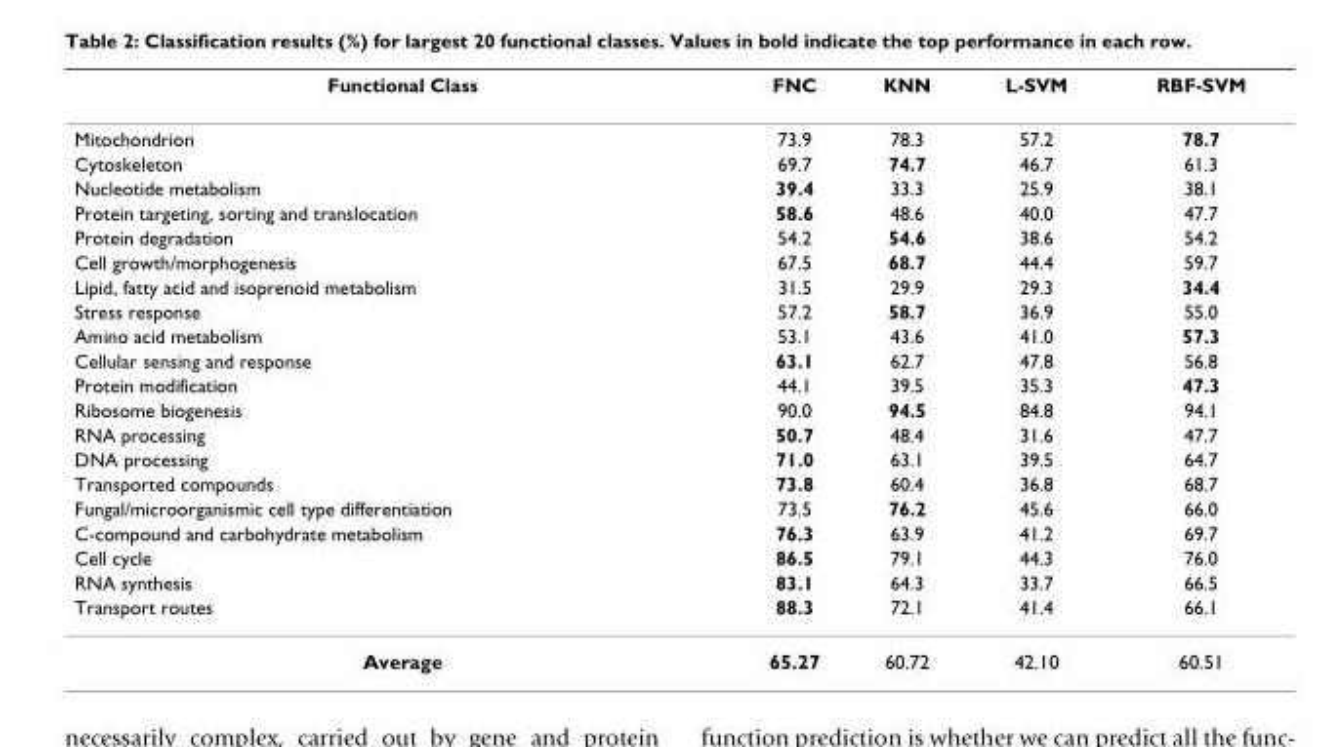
<table><thead><tr><td>Functional Class</td><td>FNC</td><td>KNN</td><td>L-SVM</td><td>RBF-SVM</td></tr></thead><tbody><tr><td>Mitochondrion</td><td>73.9</td><td>78.3</td><td>57.2</td><td>78.7</td></tr><tr><td>Cytoskeleton</td><td>69.7</td><td>74.7</td><td>46.7</td><td>61.3</td></tr><tr><td>Nucleotide metabolism</td><td>39.4</td><td>33.3</td><td>25.9</td><td>38.1</td></tr><tr><td>Protein targeting, sorting and translocation</td><td>58.6</td><td>48.6</td><td>40.0</td><td>47.7</td></tr><tr><td>Protein degradation</td><td>54.2</td><td>54.6</td><td>38.6</td><td>54.2</td></tr><tr><td>Cell growth/morphogenesis</td><td>67.5</td><td>68.7</td><td>44.4</td><td>59.7</td></tr><tr><td>Lipid, fatty acid and isoprenoid metabolism</td><td>31.5</td><td>29.9</td><td>29.3</td><td>34.4</td></tr><tr><td>Stress response</td><td>57.2</td><td>58.7</td><td>36.9</td><td>55.0</td></tr><tr><td>Amino acid metabolism</td><td>53.1</td><td>43.6</td><td>41.0</td><td>57.3</td></tr><tr><td>Cellular sensing and response</td><td>63.1</td><td>62.7</td><td>47.8</td><td>56.8</td></tr><tr><td>Protein modification</td><td>44.1</td><td>39.5</td><td>35.3</td><td>47.3</td></tr><tr><td>Ribosome biogenesis</td><td>90.0</td><td>94.5</td><td>84.8</td><td>94.1</td></tr><tr><td>RNA processing</td><td>50.7</td><td>48.4</td><td>31.6</td><td>47.7</td></tr><tr><td>DNA processing</td><td>71.0</td><td>63.1</td><td>39.5</td><td>64.7</td></tr><tr><td>Transported compounds</td><td>73.8</td><td>60.4</td><td>36.8</td><td>68.7</td></tr><tr><td>Fungal/microorganismic cell type differentiation</td><td>73.5</td><td>76.2</td><td>45.6</td><td>66.0</td></tr><tr><td>C-compound and carbohydrate metabolism</td><td>76.3</td><td>63.9</td><td>41.2</td><td>69.7</td></tr><tr><td>Cell cycle</td><td>86.5</td><td>79.1</td><td>44.3</td><td>76.0</td></tr><tr><td>RNA synthesis</td><td>83.1</td><td>64.3</td><td>33.7</td><td>66.5</td></tr><tr><td>Transport routes</td><td>88.3</td><td>72.1</td><td>41.4</td><td>66.1</td></tr><tr><td>Average</td><td>65.27</td><td>60.72</td><td>42.10</td><td>60.51</td></tr></tbody></table>